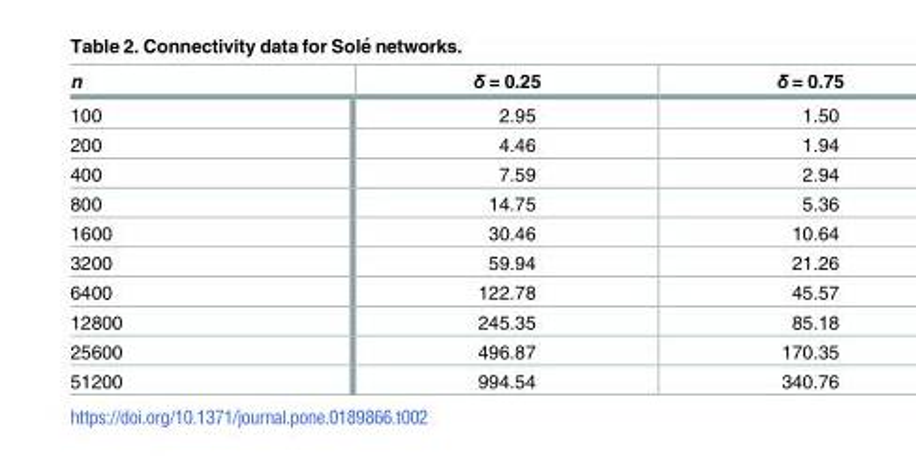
<table><thead><tr><td>n</td><td>δ = 0.25</td><td>δ = 0.75</td></tr></thead><tbody><tr><td>100</td><td>2.95</td><td>1.50</td></tr><tr><td>200</td><td>4.46</td><td>1.94</td></tr><tr><td>400</td><td>7.59</td><td>2.94</td></tr><tr><td>800</td><td>14.75</td><td>5.36</td></tr><tr><td>1600</td><td>30.46</td><td>10.64</td></tr><tr><td>3200</td><td>59.94</td><td>21.26</td></tr><tr><td>6400</td><td>122.78</td><td>45.57</td></tr><tr><td>12800</td><td>245.35</td><td>85.18</td></tr><tr><td>25600</td><td>496.87</td><td>170.35</td></tr><tr><td>51200</td><td>994.54</td><td>340.76</td></tr></tbody></table>